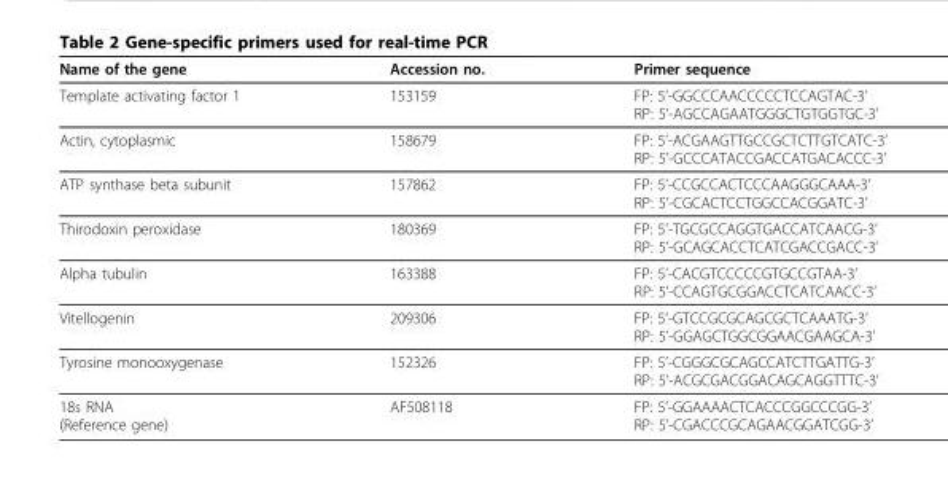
<table><thead><tr><td>Name of the gene</td><td>Accession no.</td><td>Primer sequence</td></tr></thead><tbody><tr><td>Template activating factor 1</td><td>153159</td><td>FP: 5’-GGCCCAACCCCCTCCAGTAC-3’ RP: 5’-AGCCAGAATGGGCTGTGGTGC-3’</td></tr><tr><td>Actin, cytoplasmic</td><td>158679</td><td>FP: 5’-ACGAAGTTGCCGCTCTTGTCATC-3’ RP: 5’-GCCCATACCGACCATGACACCC-3’</td></tr><tr><td>ATP synthase beta subunit</td><td>157862</td><td>FP: 5’-CCGCCACTCCCAAGGGCAAA-3’ RP: 5’-CGCACTCCTGGCCACGGATC-3’</td></tr><tr><td>Thirodoxin peroxidase</td><td>180369</td><td>FP: 5’-TGCGCCAGGTGACCATCAACG-3’ RP: 5’-GCAGCACCTCATCGACCGACC-3’</td></tr><tr><td>Alpha tubulin</td><td>163388</td><td>FP: 5’-CACGTCCCCCGTGCCGTAA-3’ RP: 5’-CCAGTGCGGACCTCATCAACC-3’</td></tr><tr><td>Vitellogenin</td><td>209306</td><td>FP: 5’-GTCCGCGCAGCGCTCAAATG-3’ RP: 5’-GGAGCTGGCGGAACGAAGCA-3’</td></tr><tr><td>Tyrosine monooxygenase</td><td>152326</td><td>FP: 5’-CGGGCGCAGCCATCTTGATTG-3’ RP: 5’-ACGCGACGGACAGCAGGTTTC-3’</td></tr><tr><td>18s RNA (Reference gene)</td><td>AF508118</td><td>FP: 5’-GGAAAACTCACCCGGCCCGG-3’ RP: 5’-CGACCCGCAGAACGGATCGG-3’</td></tr></tbody></table>